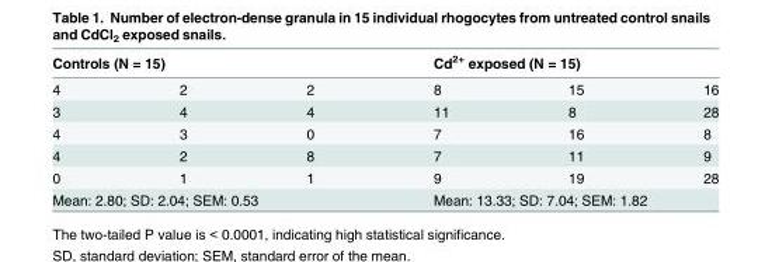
<table><thead><tr><td colspan="3">Controls (N = 15)</td><td colspan="3">Cd<sup>2+</sup> exposed (N = 15)</td></tr><tr><td>4</td><td>2</td><td>2</td><td>8</td><td>15</td><td>16</td></tr></thead><tbody><tr><td>3</td><td>4</td><td>4</td><td>11</td><td>8</td><td>28</td></tr><tr><td>4</td><td>3</td><td>0</td><td>7</td><td>16</td><td>8</td></tr><tr><td>4</td><td>2</td><td>8</td><td>7</td><td>11</td><td>9</td></tr><tr><td>0</td><td>1</td><td>1</td><td>9</td><td>19</td><td>28</td></tr><tr><td colspan="3">Mean: 2.80; SD: 2.04; SEM: 0.53</td><td colspan="3">Mean: 13.33; SD: 7.04; SEM: 1.82</td></tr></tbody></table>